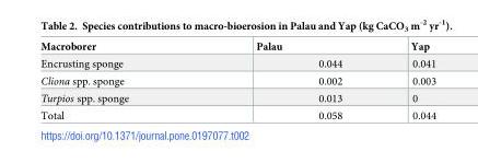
<table><thead><tr><td>Macroborer</td><td>Palau</td><td>Yap</td></tr></thead><tbody><tr><td>Encrusting sponge</td><td>0.044</td><td>0.041</td></tr><tr><td>Cliona spp. sponge</td><td>0.002</td><td>0.003</td></tr><tr><td>Turpios spp. sponge</td><td>0.013</td><td>0</td></tr><tr><td>Total</td><td>0.058</td><td>0.044</td></tr></tbody></table>